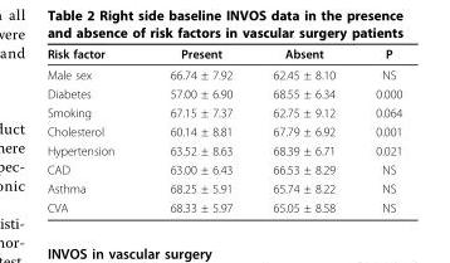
<table><thead><tr><td>Risk factor</td><td>Present</td><td>Absent</td><td>P</td></tr></thead><tbody><tr><td>Male sex</td><td>66.74 ± 7.92</td><td>62.45 ± 8.10</td><td>NS</td></tr><tr><td>Diabetes</td><td>57.00 ± 6.90</td><td>68.55 ± 6.34</td><td>0.000</td></tr><tr><td>Smoking</td><td>67.15 ± 7.37</td><td>62.75 ± 9.12</td><td>0.064</td></tr><tr><td>Cholesterol</td><td>60.14 ± 8.81</td><td>67.79 ± 6.92</td><td>0.001</td></tr><tr><td>Hypertension</td><td>63.52 ± 8.63</td><td>68.39 ± 6.71</td><td>0.021</td></tr><tr><td>CAD</td><td>63.00 ± 6.43</td><td>66.53 ± 8.29</td><td>NS</td></tr><tr><td>Asthma</td><td>68.25 ± 5.91</td><td>65.74 ± 8.22</td><td>NS</td></tr><tr><td>CVA</td><td>68.33 ± 5.97</td><td>65.05 ± 8.58</td><td>NS</td></tr></tbody></table>